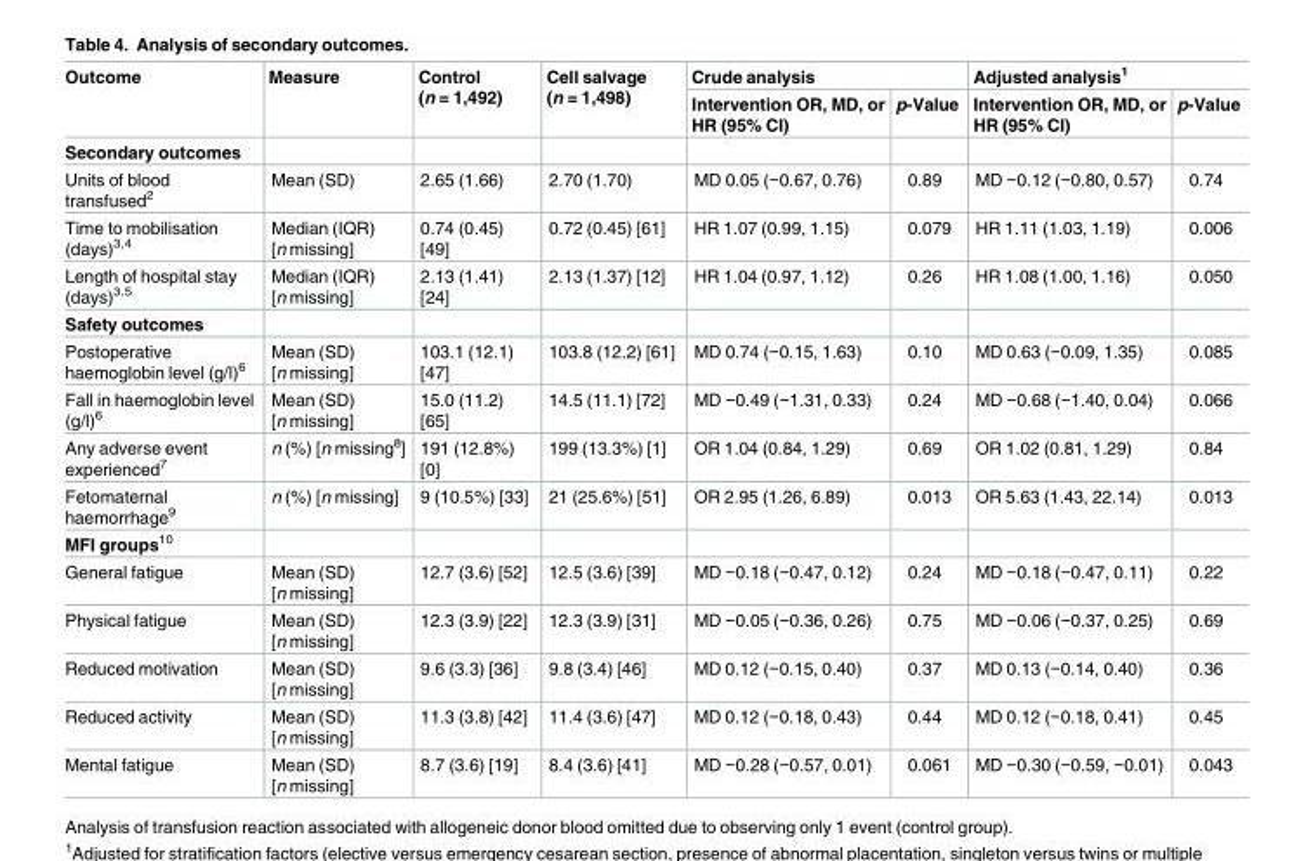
<table><thead><tr><td rowspan="2">Outcome</td><td rowspan="2">Measure</td><td rowspan="2">Control (n = 1,492)</td><td rowspan="2">Cell salvage (n = 1,498)</td><td colspan="2">Crude analysis</td><td colspan="2">Adjusted analysis<sup>1</sup></td></tr><tr><td>Intervention OR, MD, or HR (95% CI)</td><td>p-Value</td><td>Intervention OR, MD, or HR (95% CI)</td><td>p-Value</td></tr></thead><tbody><tr><td colspan="8">Secondary outcomes</td></tr><tr><td>Units of blood transfused<sup>2</sup></td><td>Mean (SD)</td><td>2.65 (1.66)</td><td>2.70 (1.70)</td><td>MD 0.05 (−0.67, 0.76)</td><td>0.89</td><td>MD −0.12 (−0.80, 0.57)</td><td>0.74</td></tr><tr><td>Time to mobilisation (days)<sup>3,4</sup></td><td>Median (IQR) [n missing]</td><td>0.74 (0.45) [49]</td><td>0.72 (0.45) [61]</td><td>HR 1.07 (0.99, 1.15)</td><td>0.079</td><td>HR 1.11 (1.03, 1.19)</td><td>0.006</td></tr><tr><td>Length of hospital stay (days)<sup>3,5</sup></td><td>Median (IQR) [n missing]</td><td>2.13 (1.41) [24]</td><td>2.13 (1.37) [12]</td><td>HR 1.04 (0.97, 1.12)</td><td>0.26</td><td>HR 1.08 (1.00, 1.16)</td><td>0.050</td></tr><tr><td colspan="8">Safety outcomes</td></tr><tr><td>Postoperative haemoglobin level (g/l)<sup>6</sup></td><td>Mean (SD) [n missing]</td><td>103.1 (12.1) [47]</td><td>103.8 (12.2) [61]</td><td>MD 0.74 (−0.15, 1.63)</td><td>0.10</td><td>MD 0.63 (−0.09, 1.35)</td><td>0.085</td></tr><tr><td>Fall in haemoglobin level (g/l)<sup>6</sup></td><td>Mean (SD) [n missing]</td><td>15.0 (11.2) [65]</td><td>14.5 (11.1) [72]</td><td>MD −0.49 (−1.31, 0.33)</td><td>0.24</td><td>MD −0.68 (−1.40, 0.04)</td><td>0.066</td></tr><tr><td>Any adverse event experienced<sup>7</sup></td><td>n (%) [n missing<sup>8</sup>]</td><td>191 (12.8%) [0]</td><td>199 (13.3%) [1]</td><td>OR 1.04 (0.84, 1.29)</td><td>0.69</td><td>OR 1.02 (0.81, 1.29)</td><td>0.84</td></tr><tr><td>Fetomaternal haemorrhage<sup>9</sup></td><td>n (%) [n missing]</td><td>9 (10.5%) [33]</td><td>21 (25.6%) [51]</td><td>OR 2.95 (1.26, 6.89)</td><td>0.013</td><td>OR 5.63 (1.43, 22.14)</td><td>0.013</td></tr><tr><td colspan="8">MFI groups<sup>10</sup></td></tr><tr><td>General fatigue</td><td>Mean (SD) [n missing]</td><td>12.7 (3.6) [52]</td><td>12.5 (3.6) [39]</td><td>MD −0.18 (−0.47, 0.12)</td><td>0.24</td><td>MD −0.18 (−0.47, 0.11)</td><td>0.22</td></tr><tr><td>Physical fatigue</td><td>Mean (SD) [n missing]</td><td>12.3 (3.9) [22]</td><td>12.3 (3.9) [31]</td><td>MD −0.05 (−0.36, 0.26)</td><td>0.75</td><td>MD −0.06 (−0.37, 0.25)</td><td>0.69</td></tr><tr><td>Reduced motivation</td><td>Mean (SD) [n missing]</td><td>9.6 (3.3) [36]</td><td>9.8 (3.4) [46]</td><td>MD 0.12 (−0.15, 0.40)</td><td>0.37</td><td>MD 0.13 (−0.14, 0.40)</td><td>0.36</td></tr><tr><td>Reduced activity</td><td>Mean (SD) [n missing]</td><td>11.3 (3.8) [42]</td><td>11.4 (3.6) [47]</td><td>MD 0.12 (−0.18, 0.43)</td><td>0.44</td><td>MD 0.12 (−0.18, 0.41)</td><td>0.45</td></tr><tr><td>Mental fatigue</td><td>Mean (SD) [n missing]</td><td>8.7 (3.6) [19]</td><td>8.4 (3.6) [41]</td><td>MD −0.28 (−0.57, 0.01)</td><td>0.061</td><td>MD −0.30 (−0.59, −0.01)</td><td>0.043</td></tr></tbody></table>